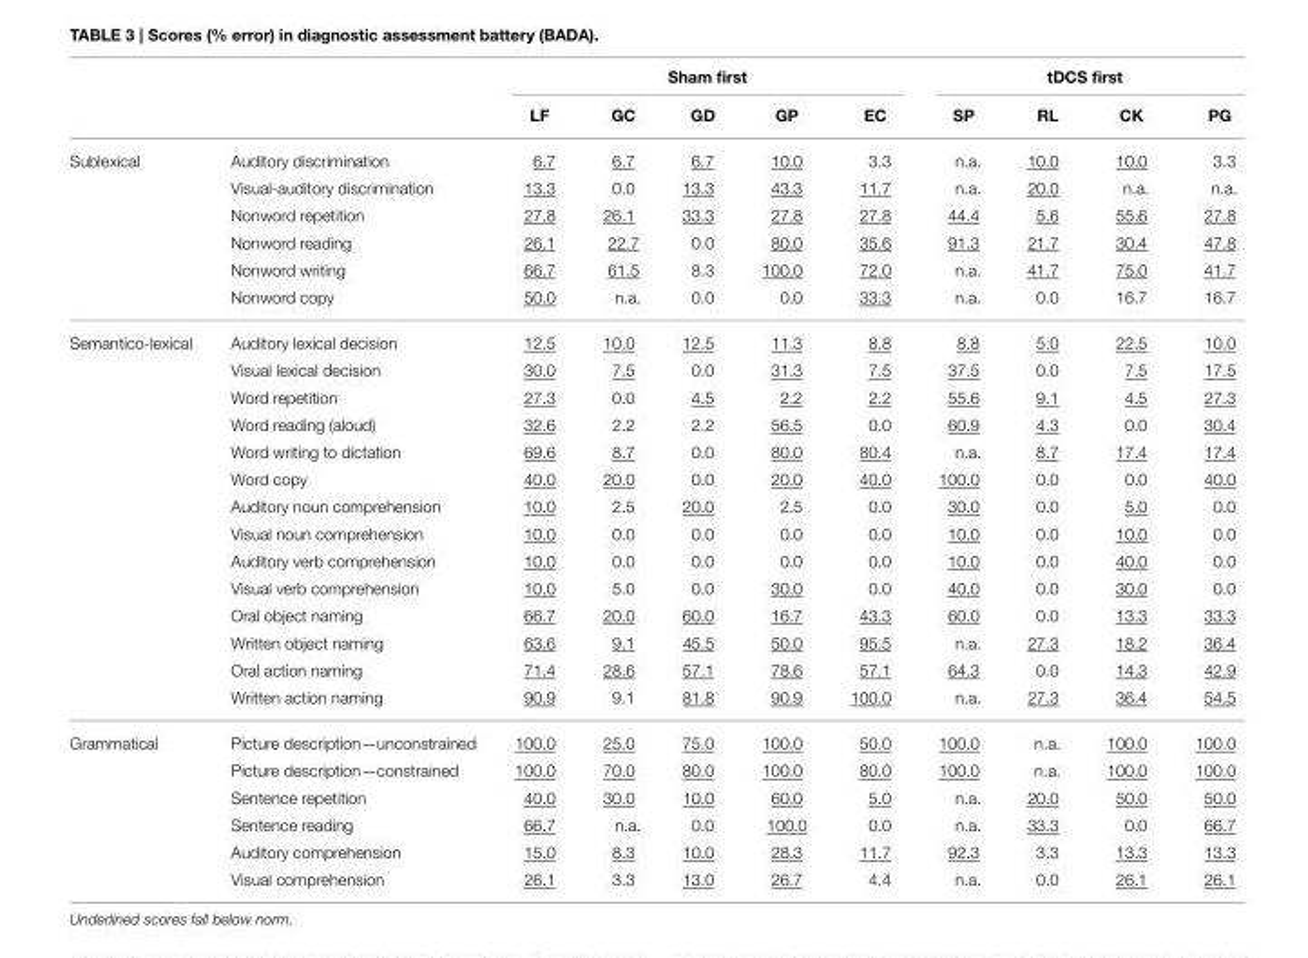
<table><thead><tr><td rowspan="2"></td><td rowspan="2"></td><td colspan="5">Sham first</td><td colspan="4">tDCS first</td></tr><tr><td>LF</td><td>GC</td><td>GD</td><td>GP</td><td>EC</td><td>SP</td><td>RL</td><td>CK</td><td>PG</td></tr></thead><tbody><tr><td rowspan="6">Sublexical</td><td>Auditory discrimination</td><td>6.7</td><td>6.7</td><td>6.7</td><td>10.0</td><td>3.3</td><td>n.a.</td><td>10.0</td><td>10.0</td><td>3.3</td></tr><tr><td>Visual-auditory discrimination</td><td>13.3</td><td>0.0</td><td>13.3</td><td>43.3</td><td>11.7</td><td>n.a.</td><td>20.0</td><td>n.a.</td><td>n.a.</td></tr><tr><td>Nonword repetition</td><td>27.8</td><td>26.1</td><td>33.3</td><td>27.8</td><td>27.8</td><td>44.4</td><td>5.6</td><td>55.6</td><td>27.8</td></tr><tr><td>Nonword reading</td><td>26.1</td><td>22.7</td><td>0.0</td><td>80.0</td><td>35.6</td><td>91.3</td><td>21.7</td><td>30.4</td><td>47.8</td></tr><tr><td>Nonword writing</td><td>66.7</td><td>61.5</td><td>8.3</td><td>100.0</td><td>72.0</td><td>n.a.</td><td>41.7</td><td>75.0</td><td>41.7</td></tr><tr><td>Nonword copy</td><td>50.0</td><td>n.a.</td><td>0.0</td><td>0.0</td><td>33.3</td><td>n.a.</td><td>0.0</td><td>16.7</td><td>16.7</td></tr><tr><td rowspan="14">Semantico-lexical</td><td>Auditory lexical decision</td><td>12.5</td><td>10.0</td><td>12.5</td><td>11.3</td><td>8.8</td><td>8.8</td><td>5.0</td><td>22.5</td><td>10.0</td></tr><tr><td>Visual lexical decision</td><td>30.0</td><td>7.5</td><td>0.0</td><td>31.3</td><td>7.5</td><td>37.5</td><td>0.0</td><td>7.5</td><td>17.5</td></tr><tr><td>Word repetition</td><td>27.3</td><td>0.0</td><td>4.5</td><td>2.2</td><td>2.2</td><td>55.6</td><td>9.1</td><td>4.5</td><td>27.3</td></tr><tr><td>Word reading (aloud)</td><td>32.6</td><td>2.2</td><td>2.2</td><td>56.5</td><td>0.0</td><td>60.9</td><td>4.3</td><td>0.0</td><td>30.4</td></tr><tr><td>Word writing to dictation</td><td>69.6</td><td>8.7</td><td>0.0</td><td>80.0</td><td>80.4</td><td>n.a.</td><td>8.7</td><td>17.4</td><td>17.4</td></tr><tr><td>Word copy</td><td>40.0</td><td>20.0</td><td>0.0</td><td>20.0</td><td>40.0</td><td>100.0</td><td>0.0</td><td>0.0</td><td>40.0</td></tr><tr><td>Auditory noun comprehension</td><td>10.0</td><td>2.5</td><td>20.0</td><td>2.5</td><td>0.0</td><td>30.0</td><td>0.0</td><td>5.0</td><td>0.0</td></tr><tr><td>Visual noun comprehension</td><td>10.0</td><td>0.0</td><td>0.0</td><td>0.0</td><td>0.0</td><td>10.0</td><td>0.0</td><td>10.0</td><td>0.0</td></tr><tr><td>Auditory verb comprehension</td><td>10.0</td><td>0.0</td><td>0.0</td><td>0.0</td><td>0.0</td><td>10.0</td><td>0.0</td><td>40.0</td><td>0.0</td></tr><tr><td>Visual verb comprehension</td><td>10.0</td><td>5.0</td><td>0.0</td><td>30.0</td><td>0.0</td><td>40.0</td><td>0.0</td><td>30.0</td><td>0.0</td></tr><tr><td>Oral object naming</td><td>66.7</td><td>20.0</td><td>60.0</td><td>16.7</td><td>43.3</td><td>60.0</td><td>0.0</td><td>13.3</td><td>33.3</td></tr><tr><td>Written object naming</td><td>63.6</td><td>9.1</td><td>45.5</td><td>50.0</td><td>95.5</td><td>n.a.</td><td>27.3</td><td>18.2</td><td>36.4</td></tr><tr><td>Oral action naming</td><td>71.4</td><td>28.6</td><td>57.1</td><td>78.6</td><td>57.1</td><td>64.3</td><td>0.0</td><td>14.3</td><td>42.9</td></tr><tr><td>Written action naming</td><td>90.9</td><td>9.1</td><td>81.8</td><td>90.9</td><td>100.0</td><td>n.a.</td><td>27.3</td><td>36.4</td><td>54.5</td></tr><tr><td rowspan="6">Grammatical</td><td>Picture description—unconstrained</td><td>100.0</td><td>25.0</td><td>75.0</td><td>100.0</td><td>50.0</td><td>100.0</td><td>n.a.</td><td>100.0</td><td>100.0</td></tr><tr><td>Picture description—constrained</td><td>100.0</td><td>70.0</td><td>80.0</td><td>100.0</td><td>80.0</td><td>100.0</td><td>n.a.</td><td>100.0</td><td>100.0</td></tr><tr><td>Sentence repetition</td><td>40.0</td><td>30.0</td><td>10.0</td><td>60.0</td><td>5.0</td><td>n.a.</td><td>20.0</td><td>50.0</td><td>50.0</td></tr><tr><td>Sentence reading</td><td>66.7</td><td>n.a.</td><td>0.0</td><td>100.0</td><td>0.0</td><td>n.a.</td><td>33.3</td><td>0.0</td><td>66.7</td></tr><tr><td>Auditory comprehension</td><td>15.0</td><td>8.3</td><td>10.0</td><td>28.3</td><td>11.7</td><td>92.3</td><td>3.3</td><td>13.3</td><td>13.3</td></tr><tr><td>Visual comprehension</td><td>26.1</td><td>3.3</td><td>13.0</td><td>26.7</td><td>4.4</td><td>n.a.</td><td>0.0</td><td>26.1</td><td>26.1</td></tr></tbody></table>